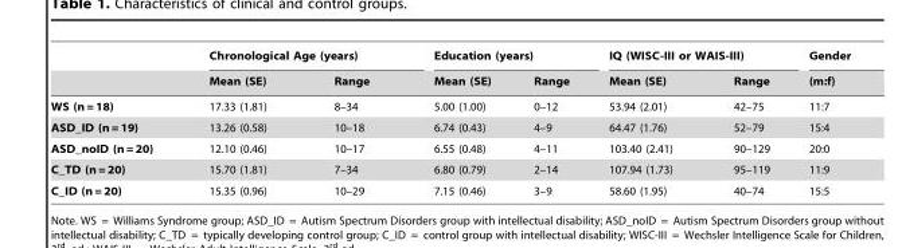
<table><thead><tr><td rowspan="2"></td><td colspan="2">Chronological Age (years)</td><td colspan="2">Education (years)</td><td colspan="2">IQ (WISC-III or WAIS-III)</td><td rowspan="2">Gender (m:f)</td></tr><tr><td>Mean (SE)</td><td>Range</td><td>Mean (SE)</td><td>Range</td><td>Mean (SE)</td><td>Range</td></tr></thead><tbody><tr><td>WS (n = 18)</td><td>17.33 (1.81)</td><td>8–34</td><td>5.00 (1.00)</td><td>0–12</td><td>53.94 (2.01)</td><td>42–75</td><td>11:7</td></tr><tr><td>ASD_ID (n = 19)</td><td>13.26 (0.58)</td><td>10–18</td><td>6.74 (0.43)</td><td>4–9</td><td>64.47 (1.76)</td><td>52–79</td><td>15:4</td></tr><tr><td>ASD_noID (n = 20)</td><td>12.10 (0.46)</td><td>10–17</td><td>6.55 (0.48)</td><td>4–11</td><td>103.40 (2.41)</td><td>90–129</td><td>20:0</td></tr><tr><td>C_TD (n = 20)</td><td>15.70 (1.81)</td><td>7–34</td><td>6.80 (0.79)</td><td>2–14</td><td>107.94 (1.73)</td><td>95–119</td><td>11:9</td></tr><tr><td>C_ID (n = 20)</td><td>15.35 (0.96)</td><td>10–29</td><td>7.15 (0.46)</td><td>3–9</td><td>58.60 (1.95)</td><td>40–74</td><td>15:5</td></tr></tbody></table>